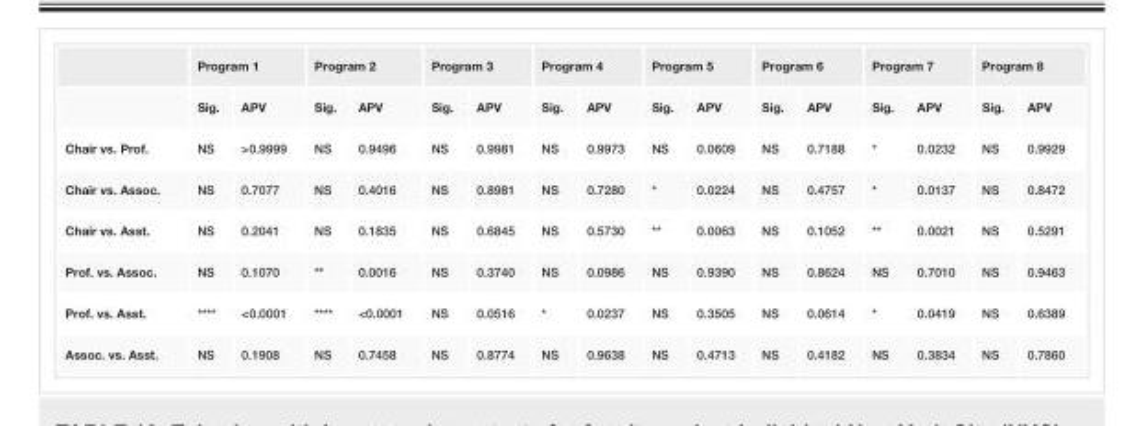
<table><thead><tr><td rowspan="2"></td><td colspan="2">Program 1</td><td colspan="2">Program 2</td><td colspan="2">Program 3</td><td colspan="2">Program 4</td><td colspan="2">Program 5</td><td colspan="2">Program 6</td><td colspan="2">Program 7</td><td colspan="2">Program 8</td></tr><tr><td>Sig.</td><td>APV</td><td>Sig.</td><td>APV</td><td>Sig.</td><td>APV</td><td>Sig.</td><td>APV</td><td>Sig.</td><td>APV</td><td>Sig.</td><td>APV</td><td>Sig.</td><td>APV</td><td>Sig.</td><td>APV</td></tr></thead><tbody><tr><td>Chair vs. Prof.</td><td>NS</td><td>&gt;0.9999</td><td>NS</td><td>0.9496</td><td>NS</td><td>0.9981</td><td>NS</td><td>0.9973</td><td>NS</td><td>0.0609</td><td>NS</td><td>0.7188</td><td>*</td><td>0.0232</td><td>NS</td><td>0.9929</td></tr><tr><td>Chair vs. Assoc.</td><td>NS</td><td>0.7077</td><td>NS</td><td>0.4016</td><td>NS</td><td>0.8981</td><td>NS</td><td>0.7280</td><td>*</td><td>0.0224</td><td>NS</td><td>0.4757</td><td>*</td><td>0.0137</td><td>NS</td><td>0.8472</td></tr><tr><td>Chair vs. Asst.</td><td>NS</td><td>0.2041</td><td>NS</td><td>0.1835</td><td>NS</td><td>0.6845</td><td>NS</td><td>0.5730</td><td>**</td><td>0.0063</td><td>NS</td><td>0.1052</td><td>**</td><td>0.0021</td><td>NS</td><td>0.5291</td></tr><tr><td>Prof. vs. Assoc.</td><td>NS</td><td>0.1070</td><td>**</td><td>0.0016</td><td>NS</td><td>0.3740</td><td>NS</td><td>0.0986</td><td>NS</td><td>0.9390</td><td>NS</td><td>0.8624</td><td>NS</td><td>0.7010</td><td>NS</td><td>0.9463</td></tr><tr><td>Prof. vs. Asst.</td><td>****</td><td>&lt;0.0001</td><td>****</td><td>&lt;0.0001</td><td>NS</td><td>0.0516</td><td>*</td><td>0.0237</td><td>NS</td><td>0.3505</td><td>NS</td><td>0.0614</td><td>*</td><td>0.0419</td><td>NS</td><td>0.6389</td></tr><tr><td>Assoc. vs. Asst.</td><td>NS</td><td>0.1908</td><td>NS</td><td>0.7458</td><td>NS</td><td>0.8774</td><td>NS</td><td>0.9638</td><td>NS</td><td>0.4713</td><td>NS</td><td>0.4182</td><td>NS</td><td>0.3834</td><td>NS</td><td>0.7860</td></tr></tbody></table>